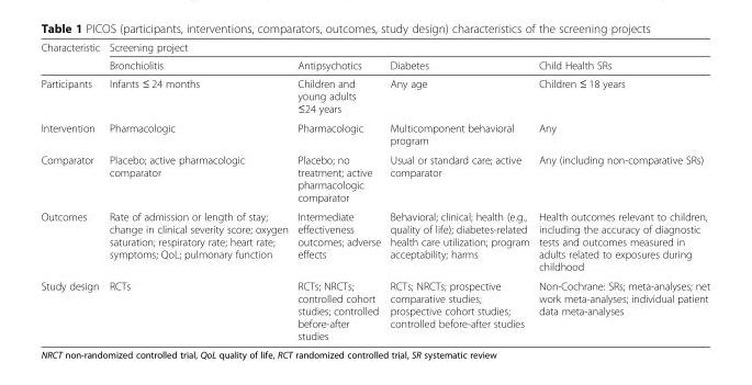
<table><thead><tr><td rowspan="2">Characteristic</td><td colspan="4">Screening project</td></tr><tr><td>Bronchiolitis</td><td>Antipsychotics</td><td>Diabetes</td><td>Child Health SRs</td></tr></thead><tbody><tr><td>Participants</td><td>Infants ≤ 24 months</td><td>Children and young adults ≤24 years</td><td>Any age</td><td>Children ≤ 18 years</td></tr><tr><td>Intervention</td><td>Pharmacologic</td><td>Pharmacologic</td><td>Multicomponent behavioral program</td><td>Any</td></tr><tr><td>Comparator</td><td>Placebo; active pharmacologic comparator</td><td>Placebo; no treatment; active pharmacologic comparator</td><td>Usual or standard care; active comparator</td><td>Any (including non-comparative SRs)</td></tr><tr><td>Outcomes</td><td>Rate of admission or length of stay; change in clinical severity score; oxygen saturation; respiratory rate; heart rate; symptoms; QoL; pulmonary function</td><td>Intermediate effectiveness outcomes; adverse effects</td><td>Behavioral; clinical; health (e.g., quality of life); diabetes-related health care utilization; program acceptability; harms</td><td>Health outcomes relevant to children, including the accuracy of diagnostic tests and outcomes measured in adults related to exposures during childhood</td></tr><tr><td>Study design</td><td>RCTs</td><td>RCTs; NRCTs; controlled cohort studies; controlled before-after studies</td><td>RCTs; NRCTs; prospective comparative studies; prospective cohort studies; controlled before-after studies</td><td>Non-Cochrane: SRs; meta-analyses; net work meta-analyses; individual patient data meta-analyses</td></tr></tbody></table>